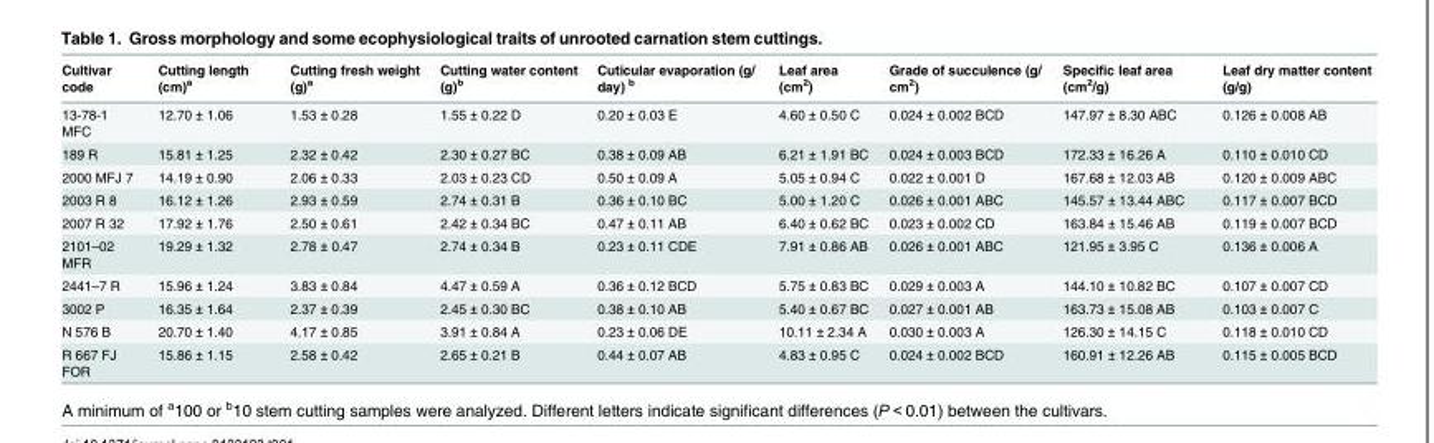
<table><thead><tr><td>Cultivar code</td><td>Cutting length (cm)<sup>a</sup></td><td>Cutting fresh weight (g)<sup>a</sup></td><td>Cutting water content (g)<sup>b</sup></td><td>Cuticular evaporation (g/ day) <sup>b</sup></td><td>Leaf area (cm<sup>2</sup>)</td><td>Grade of succulence (g/ cm<sup>2</sup>)</td><td>Specific leaf area (cm<sup>2</sup>/g)</td><td>Leaf dry matter content (g/g)</td></tr></thead><tbody><tr><td>13-78-1 MFC</td><td>12.70 ± 1.06</td><td>1.53 ± 0.28</td><td>1.55 ± 0.22 D</td><td>0.20 ± 0.03 E</td><td>4.60 ± 0.50 C</td><td>0.024 ± 0.002 BCD</td><td>147.97 ± 8.30 ABC</td><td>0.126 ± 0.008 AB</td></tr><tr><td>189 R</td><td>15.81 ± 1.25</td><td>2.32 ± 0.42</td><td>2.30 ± 0.27 BC</td><td>0.38 ± 0.09 AB</td><td>6.21 ± 1.91 BC</td><td>0.024 ± 0.003 BCD</td><td>172.33 ± 16.26 A</td><td>0.110 ± 0.010 CD</td></tr><tr><td>2000 MFJ 7</td><td>14.19 ± 0.90</td><td>2.06 ± 0.33</td><td>2.03 ± 0.23 CD</td><td>0.50 ± 0.09 A</td><td>5.05 ± 0.94 C</td><td>0.022 ± 0.001 D</td><td>167.68 ± 12.03 AB</td><td>0.120 ± 0.009 ABC</td></tr><tr><td>2003 R 8</td><td>16.12 ± 1.26</td><td>2.93 ± 0.59</td><td>2.74 ± 0.31 B</td><td>0.36 ± 0.10 BC</td><td>5.00 ± 1.20 C</td><td>0.026 ± 0.001 ABC</td><td>145.57 ± 13.44 ABC</td><td>0.117 ± 0.007 BCD</td></tr><tr><td>2007 R 32</td><td>17.92 ± 1.76</td><td>2.50 ± 0.61</td><td>2.42 ± 0.34 BC</td><td>0.47 ± 0.11 AB</td><td>6.40 ± 0.62 BC</td><td>0.023 ± 0.002 CD</td><td>163.84 ± 15.46 AB</td><td>0.119 ± 0.007 BCD</td></tr><tr><td>2101–02 MFR</td><td>19.29 ± 1.32</td><td>2.78 ± 0.47</td><td>2.74 ± 0.34 B</td><td>0.23 ± 0.11 CDE</td><td>7.91 ± 0.86 AB</td><td>0.026 ± 0.001 ABC</td><td>121.95 ± 3.95 C</td><td>0.136 ± 0.006 A</td></tr><tr><td>2441–7 R</td><td>15.96 ± 1.24</td><td>3.83 ± 0.84</td><td>4.47 ± 0.59 A</td><td>0.36 ± 0.12 BCD</td><td>5.75 ± 0.83 BC</td><td>0.029 ± 0.003 A</td><td>144.10 ± 10.82 BC</td><td>0.107 ± 0.007 CD</td></tr><tr><td>3002 P</td><td>16.35 ± 1.64</td><td>2.37 ± 0.39</td><td>2.45 ± 0.30 BC</td><td>0.38 ± 0.10 AB</td><td>5.40 ± 0.67 BC</td><td>0.027 ± 0.001 AB</td><td>163.73 ± 15.08 AB</td><td>0.103 ± 0.007 C</td></tr><tr><td>N 576 B</td><td>20.70 ± 1.40</td><td>4.17 ± 0.85</td><td>3.91 ± 0.84 A</td><td>0.23 ± 0.06 DE</td><td>10.11 ± 2.34 A</td><td>0.030 ± 0.003 A</td><td>126.30 ± 14.15 C</td><td>0.118 ± 0.010 CD</td></tr><tr><td>R 667 FJ FOR</td><td>15.86 ± 1.15</td><td>2.58 ± 0.42</td><td>2.65 ± 0.21 B</td><td>0.44 ± 0.07 AB</td><td>4.83 ± 0.95 C</td><td>0.024 ± 0.002 BCD</td><td>160.91 ± 12.26 AB</td><td>0.115 ± 0.005 BCD</td></tr></tbody></table>